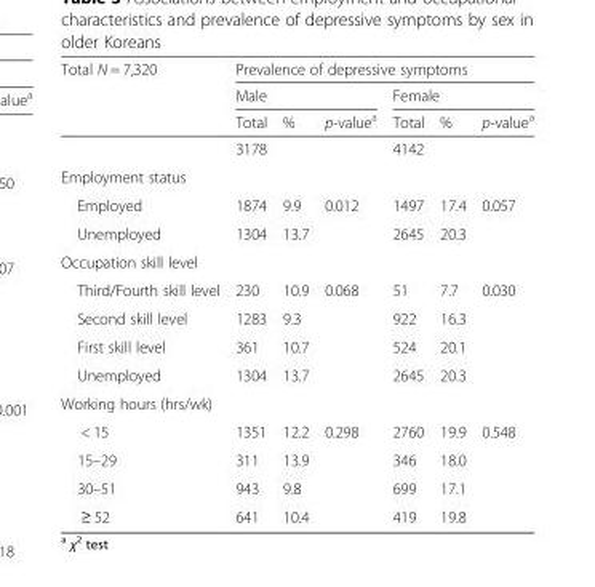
<table><thead><tr><td rowspan="3">Total N = 7,320</td><td colspan="6">Prevalence of depressive symptoms</td></tr><tr><td colspan="3">Male</td><td colspan="3">Female</td></tr><tr><td>Total</td><td>%</td><td>p-value<sup>a</sup></td><td>Total</td><td>%</td><td>p-value<sup>a</sup></td></tr></thead><tbody><tr><td></td><td>3178</td><td></td><td></td><td>4142</td><td></td><td></td></tr><tr><td colspan="7">Employment status</td></tr><tr><td>Employed</td><td>1874</td><td>9.9</td><td>0.012</td><td>1497</td><td>17.4</td><td>0.057</td></tr><tr><td>Unemployed</td><td>1304</td><td>13.7</td><td></td><td>2645</td><td>20.3</td><td></td></tr><tr><td colspan="7">Occupation skill level</td></tr><tr><td>Third/Fourth skill level</td><td>230</td><td>10.9</td><td>0.068</td><td>51</td><td>7.7</td><td>0.030</td></tr><tr><td>Second skill level</td><td>1283</td><td>9.3</td><td></td><td>922</td><td>16.3</td><td></td></tr><tr><td>First skill level</td><td>361</td><td>10.7</td><td></td><td>524</td><td>20.1</td><td></td></tr><tr><td>Unemployed</td><td>1304</td><td>13.7</td><td></td><td>2645</td><td>20.3</td><td></td></tr><tr><td colspan="7">Working hours (hrs/wk)</td></tr><tr><td>&lt; 15</td><td>1351</td><td>12.2</td><td>0.298</td><td>2760</td><td>19.9</td><td>0.548</td></tr><tr><td>15–29</td><td>311</td><td>13.9</td><td></td><td>346</td><td>18.0</td><td></td></tr><tr><td>30–51</td><td>943</td><td>9.8</td><td></td><td>699</td><td>17.1</td><td></td></tr><tr><td>≥ 52</td><td>641</td><td>10.4</td><td></td><td>419</td><td>19.8</td><td></td></tr></tbody></table>